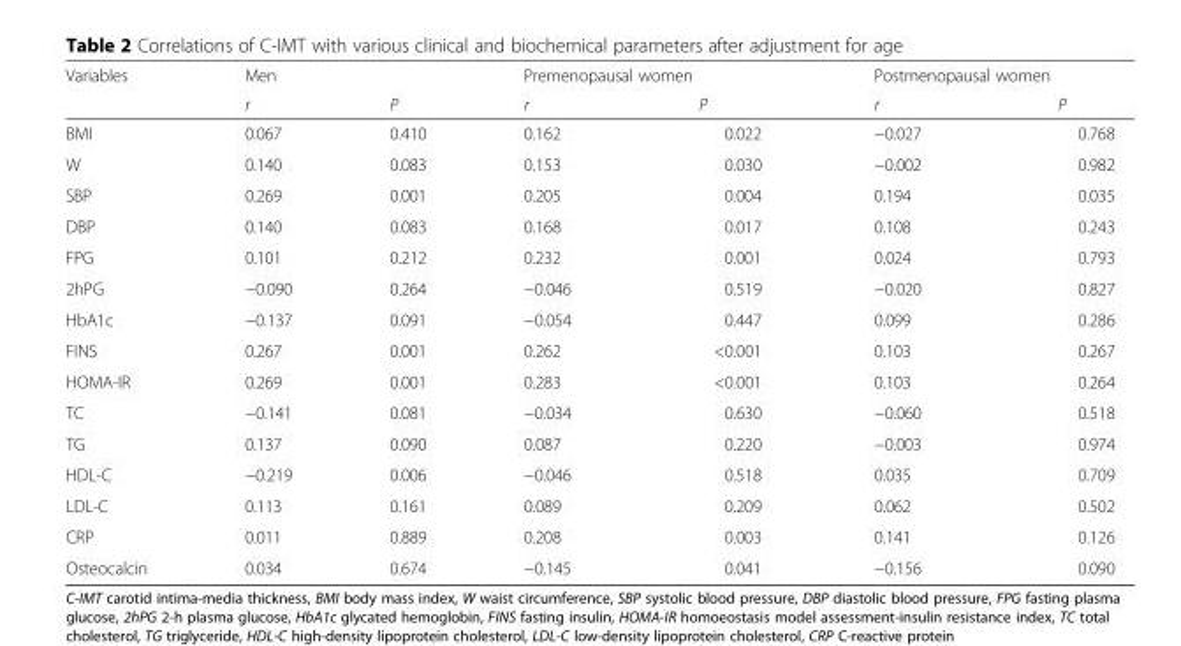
<table><thead><tr><td rowspan="2">Variables</td><td colspan="2">Men</td><td colspan="2">Premenopausal women</td><td colspan="2">Postmenopausal women</td></tr><tr><td>r</td><td>P</td><td>r</td><td>P</td><td>r</td><td>P</td></tr></thead><tbody><tr><td>BMI</td><td>0.067</td><td>0.410</td><td>0.162</td><td>0.022</td><td>−0.027</td><td>0.768</td></tr><tr><td>W</td><td>0.140</td><td>0.083</td><td>0.153</td><td>0.030</td><td>−0.002</td><td>0.982</td></tr><tr><td>SBP</td><td>0.269</td><td>0.001</td><td>0.205</td><td>0.004</td><td>0.194</td><td>0.035</td></tr><tr><td>DBP</td><td>0.140</td><td>0.083</td><td>0.168</td><td>0.017</td><td>0.108</td><td>0.243</td></tr><tr><td>FPG</td><td>0.101</td><td>0.212</td><td>0.232</td><td>0.001</td><td>0.024</td><td>0.793</td></tr><tr><td>2hPG</td><td>−0.090</td><td>0.264</td><td>−0.046</td><td>0.519</td><td>−0.020</td><td>0.827</td></tr><tr><td>HbA1c</td><td>−0.137</td><td>0.091</td><td>−0.054</td><td>0.447</td><td>0.099</td><td>0.286</td></tr><tr><td>FINS</td><td>0.267</td><td>0.001</td><td>0.262</td><td>&lt;0.001</td><td>0.103</td><td>0.267</td></tr><tr><td>HOMA-IR</td><td>0.269</td><td>0.001</td><td>0.283</td><td>&lt;0.001</td><td>0.103</td><td>0.264</td></tr><tr><td>TC</td><td>−0.141</td><td>0.081</td><td>−0.034</td><td>0.630</td><td>−0.060</td><td>0.518</td></tr><tr><td>TG</td><td>0.137</td><td>0.090</td><td>0.087</td><td>0.220</td><td>−0.003</td><td>0.974</td></tr><tr><td>HDL-C</td><td>−0.219</td><td>0.006</td><td>−0.046</td><td>0.518</td><td>0.035</td><td>0.709</td></tr><tr><td>LDL-C</td><td>0.113</td><td>0.161</td><td>0.089</td><td>0.209</td><td>0.062</td><td>0.502</td></tr><tr><td>CRP</td><td>0.011</td><td>0.889</td><td>0.208</td><td>0.003</td><td>0.141</td><td>0.126</td></tr><tr><td>Osteocalcin</td><td>0.034</td><td>0.674</td><td>−0.145</td><td>0.041</td><td>−0.156</td><td>0.090</td></tr></tbody></table>